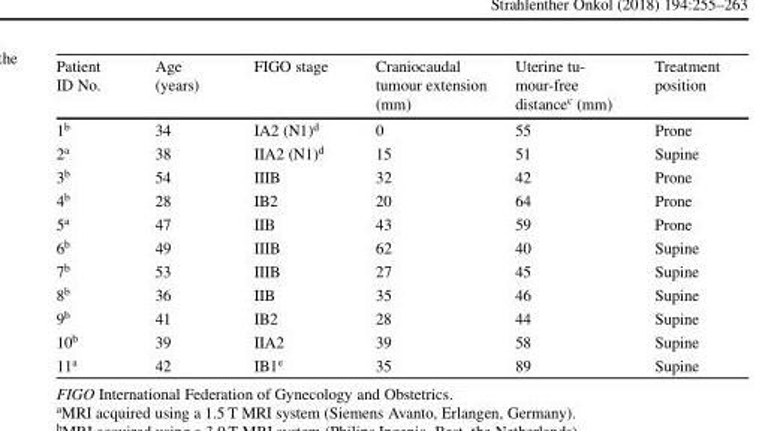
<table><thead><tr><td>Patient ID No.</td><td>Age (years)</td><td>FIGO stage</td><td>Craniocaudal tumour extension (mm)</td><td>Uterine tu- mour-free distancec (mm)</td><td>Treatment position</td></tr></thead><tbody><tr><td>1<sup>b</sup></td><td>34</td><td>IA2 (N1)<sup>d</sup></td><td>0</td><td>55</td><td>Prone</td></tr><tr><td>2<sup>a</sup></td><td>38</td><td>IIA2 (N1)<sup>d</sup></td><td>15</td><td>51</td><td>Supine</td></tr><tr><td>3<sup>b</sup></td><td>54</td><td>IIIB</td><td>32</td><td>42</td><td>Prone</td></tr><tr><td>4<sup>b</sup></td><td>28</td><td>IB2</td><td>20</td><td>64</td><td>Prone</td></tr><tr><td>5<sup>a</sup></td><td>47</td><td>IIB</td><td>43</td><td>59</td><td>Prone</td></tr><tr><td>6<sup>b</sup></td><td>49</td><td>IIIB</td><td>62</td><td>40</td><td>Supine</td></tr><tr><td>7<sup>b</sup></td><td>53</td><td>IIIB</td><td>27</td><td>45</td><td>Supine</td></tr><tr><td>8<sup>b</sup></td><td>36</td><td>IIB</td><td>35</td><td>46</td><td>Supine</td></tr><tr><td>9<sup>b</sup></td><td>41</td><td>IB2</td><td>28</td><td>44</td><td>Supine</td></tr><tr><td>10<sup>b</sup></td><td>39</td><td>IIA2</td><td>39</td><td>58</td><td>Supine</td></tr><tr><td>11<sup>a</sup></td><td>42</td><td>IB1<sup>e</sup></td><td>35</td><td>89</td><td>Supine</td></tr></tbody></table>